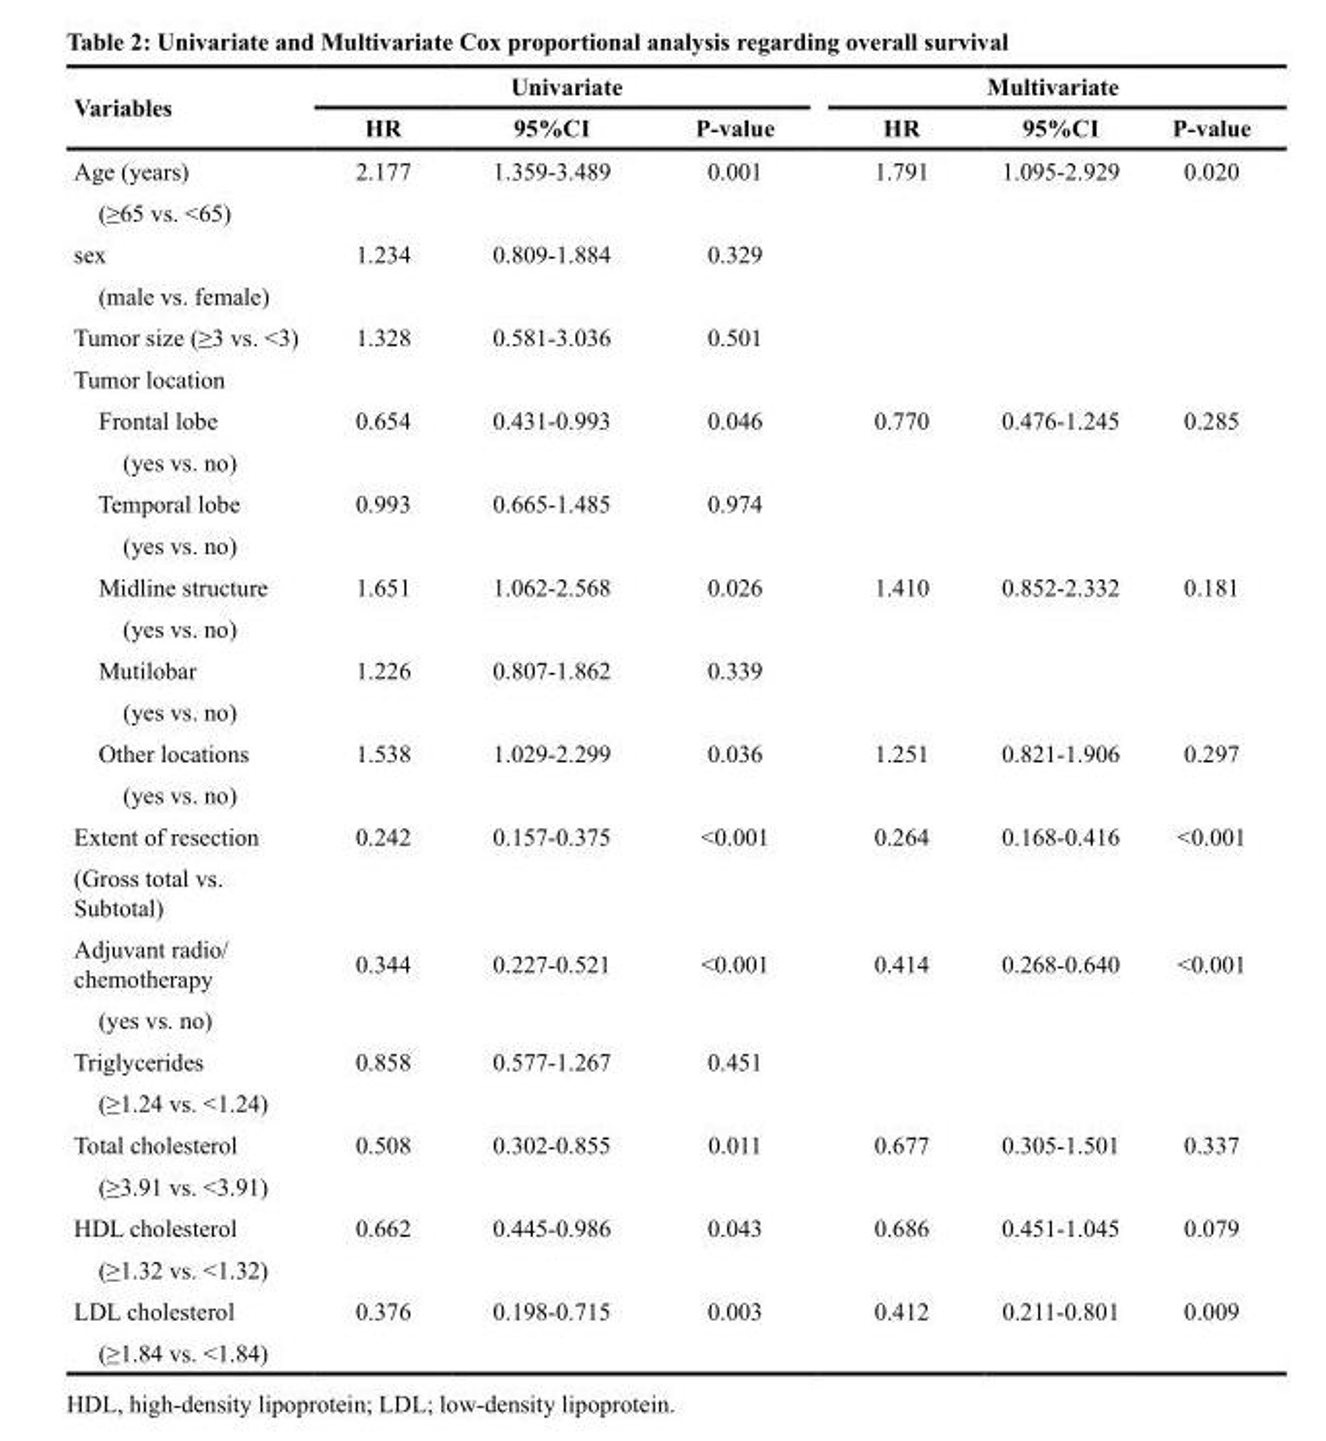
<table><thead><tr><td rowspan="2">Variables</td><td colspan="3">Univariate</td><td colspan="3">Multivariate</td></tr><tr><td>HR</td><td>95%CI</td><td>P-value</td><td>HR</td><td>95%CI</td><td>P-value</td></tr></thead><tbody><tr><td>Age (years)</td><td>2.177</td><td>1.359-3.489</td><td>0.001</td><td>1.791</td><td>1.095-2.929</td><td>0.020</td></tr><tr><td colspan="7">(≥65 vs. &lt;65)</td></tr><tr><td>sex</td><td>1.234</td><td>0.809-1.884</td><td>0.329</td><td></td><td></td><td></td></tr><tr><td colspan="7">(male vs. female)</td></tr><tr><td>Tumor size (≥3 vs. &lt;3)</td><td>1.328</td><td>0.581-3.036</td><td>0.501</td><td></td><td></td><td></td></tr><tr><td colspan="7">Tumor location</td></tr><tr><td>Frontal lobe</td><td>0.654</td><td>0.431-0.993</td><td>0.046</td><td>0.770</td><td>0.476-1.245</td><td>0.285</td></tr><tr><td colspan="7">(yes vs. no)</td></tr><tr><td>Temporal lobe</td><td>0.993</td><td>0.665-1.485</td><td>0.974</td><td></td><td></td><td></td></tr><tr><td colspan="7">(yes vs. no)</td></tr><tr><td>Midline structure</td><td>1.651</td><td>1.062-2.568</td><td>0.026</td><td>1.410</td><td>0.852-2.332</td><td>0.181</td></tr><tr><td colspan="7">(yes vs. no)</td></tr><tr><td>Mutilobar</td><td>1.226</td><td>0.807-1.862</td><td>0.339</td><td></td><td></td><td></td></tr><tr><td colspan="7">(yes vs. no)</td></tr><tr><td>Other locations</td><td>1.538</td><td>1.029-2.299</td><td>0.036</td><td>1.251</td><td>0.821-1.906</td><td>0.297</td></tr><tr><td colspan="7">(yes vs. no)</td></tr><tr><td>Extent of resection</td><td>0.242</td><td>0.157-0.375</td><td>&lt;0.001</td><td>0.264</td><td>0.168-0.416</td><td>&lt;0.001</td></tr><tr><td colspan="7">(Gross total vs. Subtotal)</td></tr><tr><td>Adjuvant radio/ chemotherapy</td><td>0.344</td><td>0.227-0.521</td><td>&lt;0.001</td><td>0.414</td><td>0.268-0.640</td><td>&lt;0.001</td></tr><tr><td colspan="7">(yes vs. no)</td></tr><tr><td>Triglycerides</td><td>0.858</td><td>0.577-1.267</td><td>0.451</td><td></td><td></td><td></td></tr><tr><td colspan="7">(≥1.24 vs. &lt;1.24)</td></tr><tr><td>Total cholesterol</td><td>0.508</td><td>0.302-0.855</td><td>0.011</td><td>0.677</td><td>0.305-1.501</td><td>0.337</td></tr><tr><td colspan="7">(≥3.91 vs. &lt;3.91)</td></tr><tr><td>HDL cholesterol</td><td>0.662</td><td>0.445-0.986</td><td>0.043</td><td>0.686</td><td>0.451-1.045</td><td>0.079</td></tr><tr><td colspan="7">(≥1.32 vs. &lt;1.32)</td></tr><tr><td>LDL cholesterol</td><td>0.376</td><td>0.198-0.715</td><td>0.003</td><td>0.412</td><td>0.211-0.801</td><td>0.009</td></tr><tr><td>(≥1.84 vs. &lt;1.84)</td><td></td><td></td><td></td><td></td><td></td><td></td></tr></tbody></table>